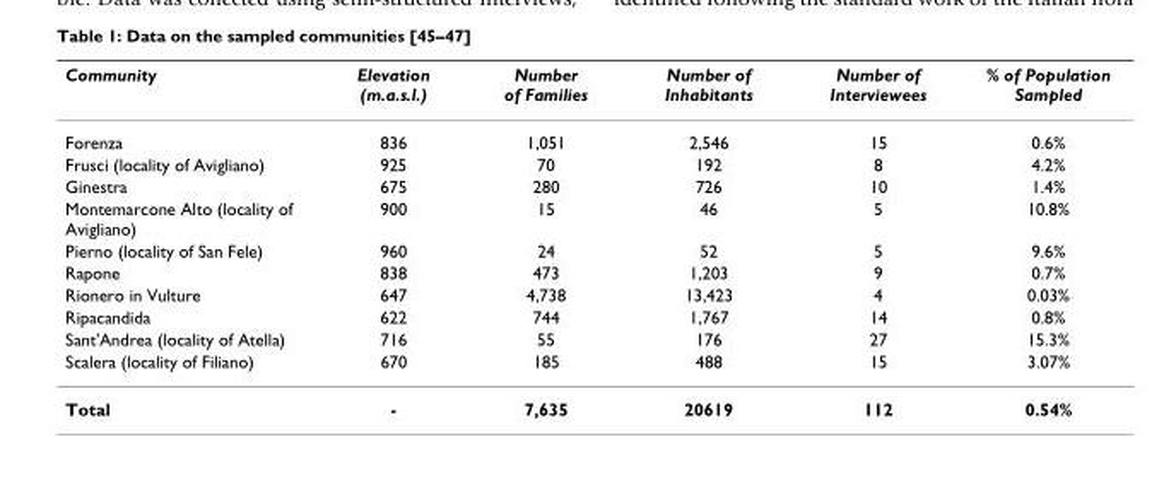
<table><thead><tr><td>Community</td><td>Elevation (m.a.s.l.)</td><td>Number of Families</td><td>Number of Inhabitants</td><td>Number of Interviewees</td><td>% of Population Sampled</td></tr></thead><tbody><tr><td>Forenza</td><td>836</td><td>1,051</td><td>2,546</td><td>15</td><td>0.6%</td></tr><tr><td>Frusci (locality of Avigliano)</td><td>925</td><td>70</td><td>192</td><td>8</td><td>4.2%</td></tr><tr><td>Ginestra</td><td>675</td><td>280</td><td>726</td><td>10</td><td>1.4%</td></tr><tr><td>Montemarcone Alto (locality of Avigliano)</td><td>900</td><td>15</td><td>46</td><td>5</td><td>10.8%</td></tr><tr><td>Pierno (locality of San Fele)</td><td>960</td><td>24</td><td>52</td><td>5</td><td>9.6%</td></tr><tr><td>Rapone</td><td>838</td><td>473</td><td>1,203</td><td>9</td><td>0.7%</td></tr><tr><td>Rionero in Vulture</td><td>647</td><td>4,738</td><td>13,423</td><td>4</td><td>0.03%</td></tr><tr><td>Ripacandida</td><td>622</td><td>744</td><td>1,767</td><td>14</td><td>0.8%</td></tr><tr><td>Sant&#x27;Andrea (locality of Atella)</td><td>716</td><td>55</td><td>176</td><td>27</td><td>15.3%</td></tr><tr><td>Scalera (locality of Filiano)</td><td>670</td><td>185</td><td>488</td><td>15</td><td>3.07%</td></tr><tr><td>Total</td><td>-</td><td>7,635</td><td>20619</td><td>112</td><td>0.54%</td></tr></tbody></table>